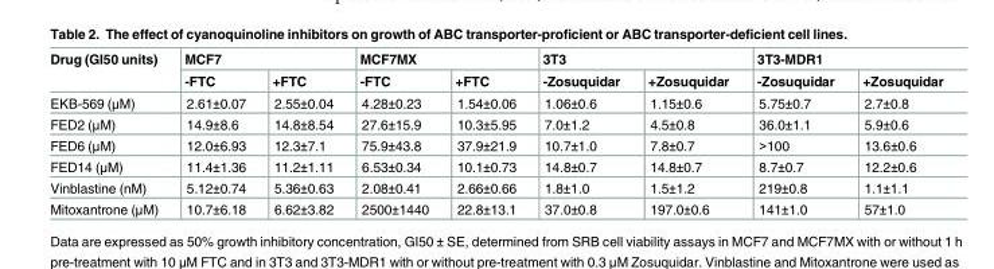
<table><thead><tr><td rowspan="2">Drug (GI50 units)</td><td colspan="2">MCF7</td><td colspan="2">MCF7MX</td><td colspan="2">3T3</td><td colspan="2">3T3-MDR1</td></tr><tr><td>-FTC</td><td>+FTC</td><td>-FTC</td><td>+FTC</td><td>-Zosuquidar</td><td>+Zosuquidar</td><td>-Zosuquidar</td><td>+Zosuquidar</td></tr></thead><tbody><tr><td>EKB-569 (μM)</td><td>2.61±0.07</td><td>2.55±0.04</td><td>4.28±0.23</td><td>1.54±0.06</td><td>1.06±0.6</td><td>1.15±0.6</td><td>5.75±0.7</td><td>2.7±0.8</td></tr><tr><td>FED2 (μM)</td><td>14.9±8.6</td><td>14.8±8.54</td><td>27.6±15.9</td><td>10.3±5.95</td><td>7.0±1.2</td><td>4.5±0.8</td><td>36.0±1.1</td><td>5.9±0.6</td></tr><tr><td>FED6 (μM)</td><td>12.0±6.93</td><td>12.3±7.1</td><td>75.9±43.8</td><td>37.9±21.9</td><td>10.7±1.0</td><td>7.8±0.7</td><td>&gt;100</td><td>13.6±0.6</td></tr><tr><td>FED14 (μM)</td><td>11.4±1.36</td><td>11.2±1.11</td><td>6.53±0.34</td><td>10.1±0.73</td><td>14.8±0.7</td><td>14.8±0.7</td><td>8.7±0.7</td><td>12.2±0.6</td></tr><tr><td>Vinblastine (nM)</td><td>5.12±0.74</td><td>5.36±0.63</td><td>2.08±0.41</td><td>2.66±0.66</td><td>1.8±1.0</td><td>1.5±1.2</td><td>219±0.8</td><td>1.1±1.1</td></tr><tr><td>Mitoxantrone (μM)</td><td>10.7±6.18</td><td>6.62±3.82</td><td>2500±1440</td><td>22.8±13.1</td><td>37.0±0.8</td><td>197.0±0.6</td><td>141±1.0</td><td>57±1.0</td></tr></tbody></table>